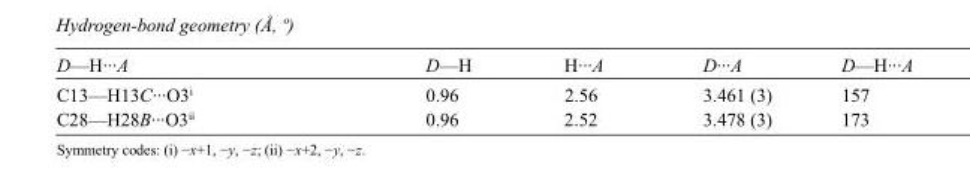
<table><tbody><tr><td>D—H···A</td><td>D—H</td><td>H···A</td><td>D···A</td><td>D—H···A</td></tr><tr><td>C13—H13C···O3<sup>i</sup></td><td>0.96</td><td>2.56</td><td>3.461 (3)</td><td>157</td></tr><tr><td>C28—H28B···O3<sup>ii</sup></td><td>0.96</td><td>2.52</td><td>3.478 (3)</td><td>173</td></tr></tbody></table>